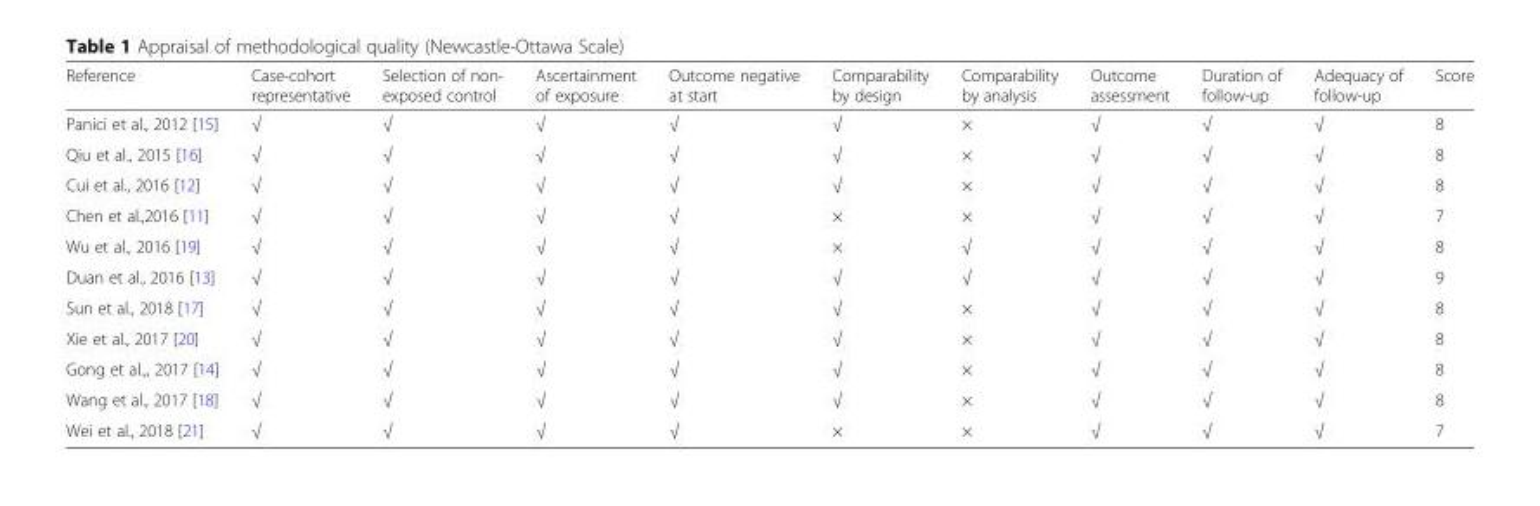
<table><thead><tr><td>Reference</td><td>Case-cohort representative</td><td>Selection of non- exposed control</td><td>Ascertainment of exposure</td><td>Outcome negative at start</td><td>Comparability by design</td><td>Comparability by analysis</td><td>Outcome assessment</td><td>Duration of follow-up</td><td>Adequacy of follow-up</td><td>Score</td></tr></thead><tbody><tr><td>Panici et al., 2012 [15]</td><td>√</td><td>√</td><td>√</td><td>√</td><td>√</td><td>×</td><td>√</td><td>√</td><td>√</td><td>8</td></tr><tr><td>Qiu et al., 2015 [16]</td><td>√</td><td>√</td><td>√</td><td>√</td><td>√</td><td>×</td><td>√</td><td>√</td><td>√</td><td>8</td></tr><tr><td>Cui et al., 2016 [12]</td><td>√</td><td>√</td><td>√</td><td>√</td><td>√</td><td>×</td><td>√</td><td>√</td><td>√</td><td>8</td></tr><tr><td>Chen et al.,2016 [11]</td><td>√</td><td>√</td><td>√</td><td>√</td><td>×</td><td>×</td><td>√</td><td>√</td><td>√</td><td>7</td></tr><tr><td>Wu et al., 2016 [19]</td><td>√</td><td>√</td><td>√</td><td>√</td><td>×</td><td>√</td><td>√</td><td>√</td><td>√</td><td>8</td></tr><tr><td>Duan et al., 2016 [13]</td><td>√</td><td>√</td><td>√</td><td>√</td><td>√</td><td>√</td><td>√</td><td>√</td><td>√</td><td>9</td></tr><tr><td>Sun et al., 2018 [17]</td><td>√</td><td>√</td><td>√</td><td>√</td><td>√</td><td>×</td><td>√</td><td>√</td><td>√</td><td>8</td></tr><tr><td>Xie et al., 2017 [20]</td><td>√</td><td>√</td><td>√</td><td>√</td><td>√</td><td>×</td><td>√</td><td>√</td><td>√</td><td>8</td></tr><tr><td>Gong et al.,, 2017 [14]</td><td>√</td><td>√</td><td>√</td><td>√</td><td>√</td><td>×</td><td>√</td><td>√</td><td>√</td><td>8</td></tr><tr><td>Wang et al., 2017 [18]</td><td>√</td><td>√</td><td>√</td><td>√</td><td>√</td><td>×</td><td>√</td><td>√</td><td>√</td><td>8</td></tr><tr><td>Wei et al., 2018 [21]</td><td>√</td><td>√</td><td>√</td><td>√</td><td>×</td><td>×</td><td>√</td><td>√</td><td>√</td><td>7</td></tr></tbody></table>